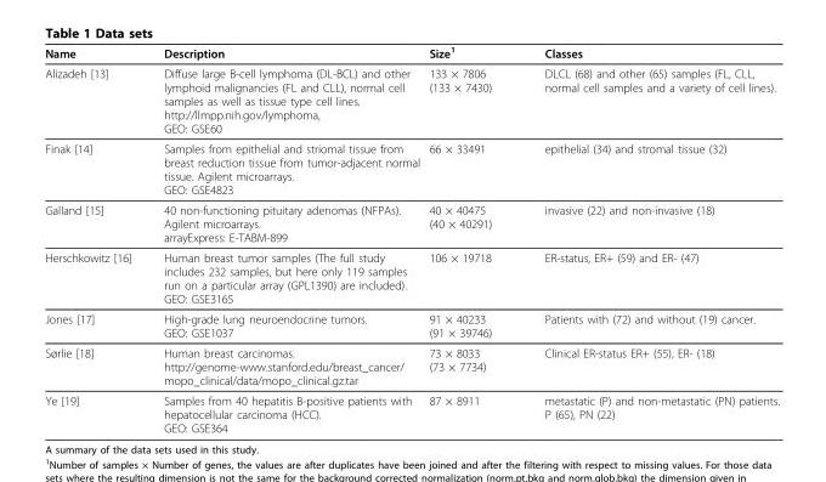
<table><thead><tr><td>Name</td><td>Description</td><td>Size<sup>1</sup></td><td>Classes</td></tr></thead><tbody><tr><td>Alizadeh [13]</td><td>Diffuse large B-cell lymphoma (DL-BCL) and other lymphoid malignancies (FL and CLL), normal cell samples as well as tissue type cell lines. http://llmpp.nih.gov/lymphoma, GEO: GSE60</td><td>133 × 7806 (133 × 7430)</td><td>DLCL (68) and other (65) samples (FL, CLL, normal cell samples and a variety of cell lines).</td></tr><tr><td>Finak [14]</td><td>Samples from epithelial and striomal tissue from breast reduction tissue from tumor-adjacent normal tissue. Agilent microarrays. GEO: GSE4823</td><td>66 × 33491</td><td>epithelial (34) and stromal tissue (32)</td></tr><tr><td>Galland [15]</td><td>40 non-functioning pituitary adenomas (NFPAs). Agilent microarrays. arrayExpress: E-TABM-899</td><td>40 × 40475 (40 × 40291)</td><td>invasive (22) and non-invasive (18)</td></tr><tr><td>Herschkowitz [16]</td><td>Human breast tumor samples (The full study includes 232 samples, but here only 119 samples run on a particular array (GPL1390) are included). GEO: GSE3165</td><td>106 × 19718</td><td>ER-status, ER+ (59) and ER- (47)</td></tr><tr><td>Jones [17]</td><td>High-grade lung neuroendocrine tumors. GEO: GSE1037</td><td>91 × 40233 (91 × 39746)</td><td>Patients with (72) and without (19) cancer.</td></tr><tr><td>Sørlie [18]</td><td>Human breast carcinomas. http://genome-www.stanford.edu/breast_cancer/ mopo_clinical/data/mopo_clinical.gz.tar</td><td>73 × 8033 (73 × 7734)</td><td>Clinical ER-status ER+ (55), ER- (18)</td></tr><tr><td>Ye [19]</td><td>Samples from 40 hepatitis B-positive patients with hepatocellular carcinoma (HCC). GEO: GSE364</td><td>87 × 8911</td><td>metastatic (P) and non-metastatic (PN) patients. P (65), PN (22)</td></tr></tbody></table>